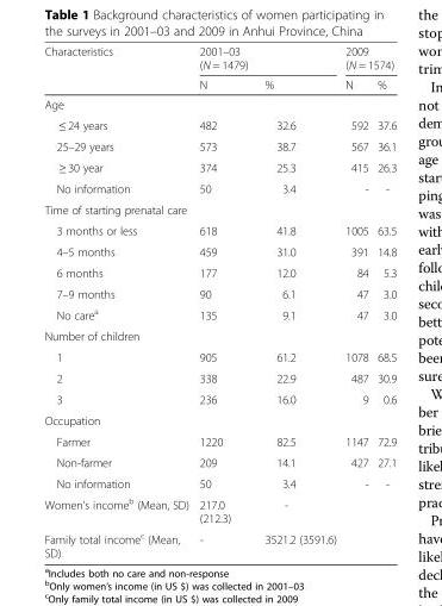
<table><thead><tr><td rowspan="3">Characteristics</td><td rowspan="2" colspan="2">2001–03 (N = 1479)</td><td rowspan="2" colspan="2">2009 (N = 1574)</td></tr><tr></tr><tr><td>N</td><td>%</td><td>N</td><td>%</td></tr></thead><tbody><tr><td colspan="5">Age</td></tr><tr><td>≤ 24 years</td><td>482</td><td>32.6</td><td>592</td><td>37.6</td></tr><tr><td>25–29 years</td><td>573</td><td>38.7</td><td>567</td><td>36.1</td></tr><tr><td>≥ 30 year</td><td>374</td><td>25.3</td><td>415</td><td>26.3</td></tr><tr><td>No information</td><td>50</td><td>3.4</td><td>-</td><td>-</td></tr><tr><td colspan="5">Time of starting prenatal care</td></tr><tr><td>3 months or less</td><td>618</td><td>41.8</td><td>1005</td><td>63.5</td></tr><tr><td>4–5 months</td><td>459</td><td>31.0</td><td>391</td><td>14.8</td></tr><tr><td>6 months</td><td>177</td><td>12.0</td><td>84</td><td>5.3</td></tr><tr><td>7–9 months</td><td>90</td><td>6.1</td><td>47</td><td>3.0</td></tr><tr><td>No care<sup>a</sup></td><td>135</td><td>9.1</td><td>47</td><td>3.0</td></tr><tr><td colspan="5">Number of children</td></tr><tr><td>1</td><td>905</td><td>61.2</td><td>1078</td><td>68.5</td></tr><tr><td>2</td><td>338</td><td>22.9</td><td>487</td><td>30.9</td></tr><tr><td>3</td><td>236</td><td>16.0</td><td>9</td><td>0.6</td></tr><tr><td colspan="5">Occupation</td></tr><tr><td>Farmer</td><td>1220</td><td>82.5</td><td>1147</td><td>72.9</td></tr><tr><td>Non-farmer</td><td>209</td><td>14.1</td><td>427</td><td>27.1</td></tr><tr><td>No information</td><td>50</td><td>3.4</td><td>-</td><td>-</td></tr><tr><td>Women’s income<sup>b</sup> (Mean, SD)</td><td>217.0 (212.3)</td><td>-</td><td></td><td></td></tr><tr><td>Family total income<sup>c</sup> (Mean, SD)</td><td>-</td><td>3521.2 (3591.6)</td><td></td><td></td></tr></tbody></table>